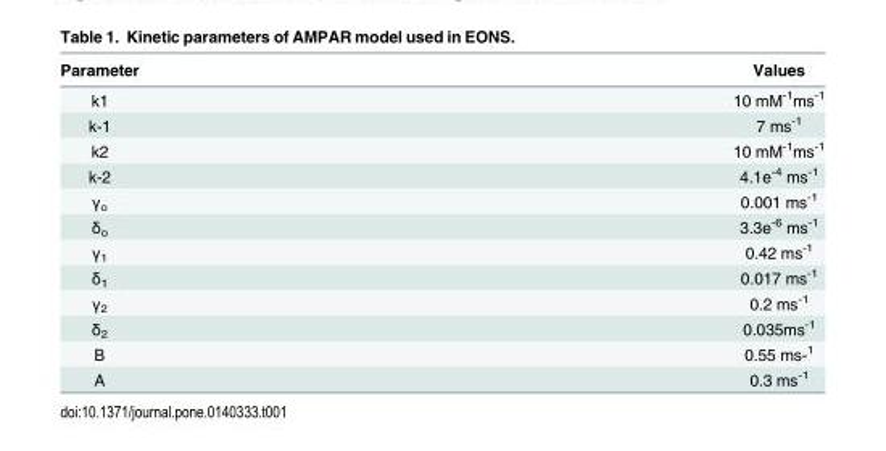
<table><thead><tr><td>Parameter</td><td>Values</td></tr></thead><tbody><tr><td>k1</td><td>10 mM<sup>-1</sup>ms<sup>-1</sup></td></tr><tr><td>k-1</td><td>7 ms<sup>-1</sup></td></tr><tr><td>k2</td><td>10 mM<sup>-1</sup>ms<sup>-1</sup></td></tr><tr><td>k-2</td><td>4.1e<sup>-4</sup> ms<sup>-1</sup></td></tr><tr><td>γ<sub>o</sub></td><td>0.001 ms<sup>-1</sup></td></tr><tr><td>δ<sub>o</sub></td><td>3.3e<sup>-6</sup> ms<sup>-1</sup></td></tr><tr><td>γ<sub>1</sub></td><td>0.42 ms<sup>-1</sup></td></tr><tr><td>δ<sub>1</sub></td><td>0.017 ms<sup>-1</sup></td></tr><tr><td>γ<sub>2</sub></td><td>0.2 ms<sup>-1</sup></td></tr><tr><td>δ<sub>2</sub></td><td>0.035ms<sup>-1</sup></td></tr><tr><td>Β</td><td>0.55 ms-<sup>1</sup></td></tr><tr><td>A</td><td>0.3 ms<sup>-1</sup></td></tr></tbody></table>